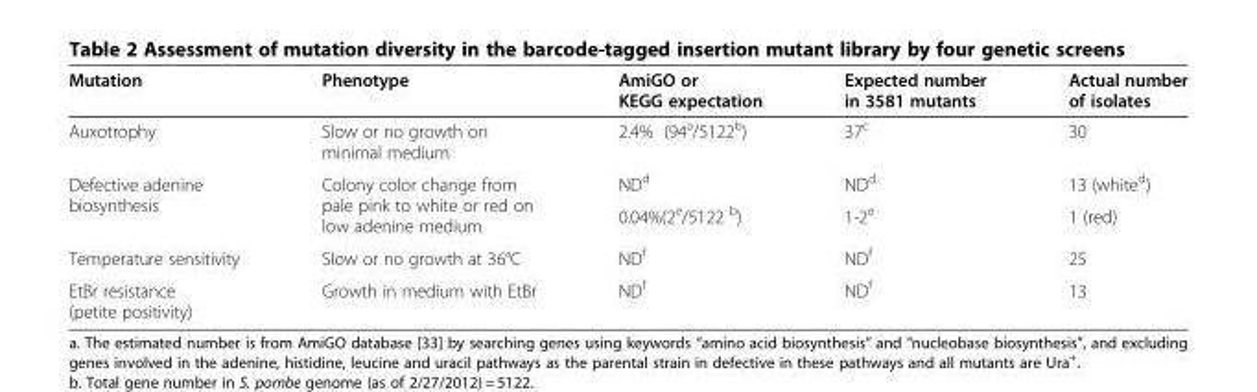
<table><thead><tr><td>Mutation</td><td>Phenotype</td><td>AmiGO or KEGG expectation</td><td>Expected number in 3581 mutants</td><td>Actual number of isolates</td></tr></thead><tbody><tr><td>Auxotrophy</td><td>Slow or no growth on minimal medium</td><td>2.4% (94<sup>a</sup>/5122<sup>b</sup>)</td><td>37<sup>c</sup></td><td>30</td></tr><tr><td rowspan="2">Defective adenine biosynthesis</td><td rowspan="2">Colony color change from pale pink to white or red on low adenine medium</td><td>ND<sup>d</sup></td><td>ND<sup>d</sup></td><td>13 (white<sup>d</sup>)</td></tr><tr><td>0.04%(2<sup>e</sup>/5122 <sup>b</sup>)</td><td>1-2<sup>e</sup></td><td>1 (red)</td></tr><tr><td>Temperature sensitivity</td><td>Slow or no growth at 36°C</td><td>ND<sup>f</sup></td><td>ND<sup>f</sup></td><td>25</td></tr><tr><td>EtBr resistance (petite positivity)</td><td>Growth in medium with EtBr</td><td>ND<sup>f</sup></td><td>ND<sup>f</sup></td><td>13</td></tr></tbody></table>